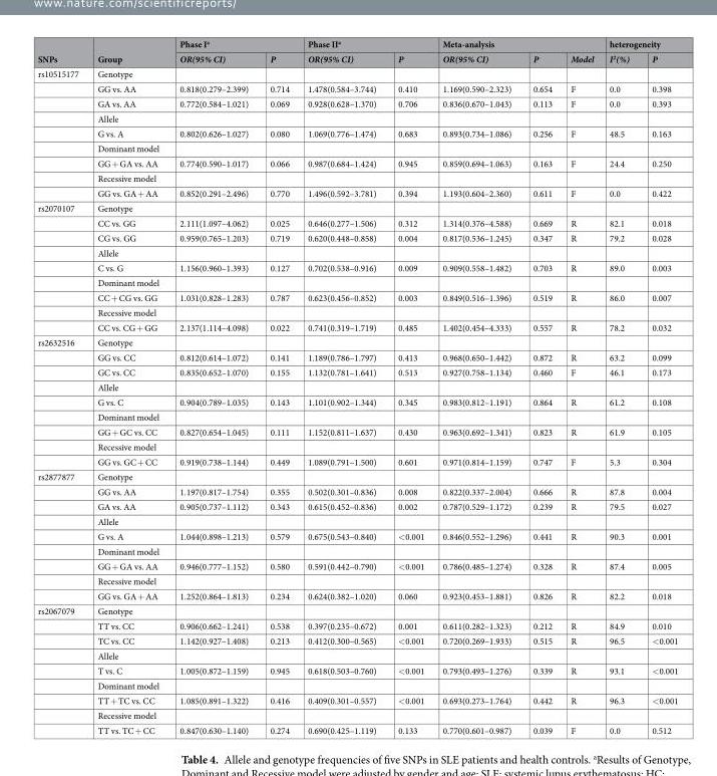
<table><thead><tr><td rowspan="2">SNPs</td><td rowspan="2">Group</td><td colspan="2">Phase I<sup>a</sup></td><td colspan="2">Phase II<sup>a</sup></td><td colspan="3">Meta-analysis</td><td colspan="2">heterogeneity</td></tr><tr><td>OR(95% CI)</td><td>P</td><td>OR(95% CI)</td><td>P</td><td>OR(95% CI)</td><td>P</td><td>Model</td><td>I<sup>2</sup>(%)</td><td>P</td></tr></thead><tbody><tr><td rowspan="9">rs10515177</td><td>Genotype</td><td></td><td></td><td></td><td></td><td></td><td></td><td></td><td></td><td></td></tr><tr><td>GG vs. AA</td><td>0.818(0.279–2.399)</td><td>0.714</td><td>1.478(0.584–3.744)</td><td>0.410</td><td>1.169(0.590–2.323)</td><td>0.654</td><td>F</td><td>0.0</td><td>0.398</td></tr><tr><td>GA vs. AA</td><td>0.772(0.584–1.021)</td><td>0.069</td><td>0.928(0.628–1.370)</td><td>0.706</td><td>0.836(0.670–1.043)</td><td>0.113</td><td>F</td><td>0.0</td><td>0.393</td></tr><tr><td>Allele</td><td></td><td></td><td></td><td></td><td></td><td></td><td></td><td></td><td></td></tr><tr><td>G vs. A</td><td>0.802(0.626–1.027)</td><td>0.080</td><td>1.069(0.776–1.474)</td><td>0.683</td><td>0.893(0.734–1.086)</td><td>0.256</td><td>F</td><td>48.5</td><td>0.163</td></tr><tr><td>Dominant model</td><td></td><td></td><td></td><td></td><td></td><td></td><td></td><td></td><td></td></tr><tr><td>GG + GA vs. AA</td><td>0.774(0.590–1.017)</td><td>0.066</td><td>0.987(0.684–1.424)</td><td>0.945</td><td>0.859(0.694–1.063)</td><td>0.163</td><td>F</td><td>24.4</td><td>0.250</td></tr><tr><td>Recessive model</td><td></td><td></td><td></td><td></td><td></td><td></td><td></td><td></td><td></td></tr><tr><td>GG vs. GA + AA</td><td>0.852(0.291–2.496)</td><td>0.770</td><td>1.496(0.592–3.781)</td><td>0.394</td><td>1.193(0.604–2.360)</td><td>0.611</td><td>F</td><td>0.0</td><td>0.422</td></tr><tr><td rowspan="9">rs2070107</td><td>Genotype</td><td></td><td></td><td></td><td></td><td></td><td></td><td></td><td></td><td></td></tr><tr><td>CC vs. GG</td><td>2.111(1.097–4.062)</td><td>0.025</td><td>0.646(0.277–1.506)</td><td>0.312</td><td>1.314(0.376–4.588)</td><td>0.669</td><td>R</td><td>82.1</td><td>0.018</td></tr><tr><td>CG vs. GG</td><td>0.959(0.765–1.203)</td><td>0.719</td><td>0.620(0.448–0.858)</td><td>0.004</td><td>0.817(0.536–1.245)</td><td>0.347</td><td>R</td><td>79.2</td><td>0.028</td></tr><tr><td>Allele</td><td></td><td></td><td></td><td></td><td></td><td></td><td></td><td></td><td></td></tr><tr><td>C vs. G</td><td>1.156(0.960–1.393)</td><td>0.127</td><td>0.702(0.538–0.916)</td><td>0.009</td><td>0.909(0.558–1.482)</td><td>0.703</td><td>R</td><td>89.0</td><td>0.003</td></tr><tr><td>Dominant model</td><td></td><td></td><td></td><td></td><td></td><td></td><td></td><td></td><td></td></tr><tr><td>CC + CG vs. GG</td><td>1.031(0.828–1.283)</td><td>0.787</td><td>0.623(0.456–0.852)</td><td>0.003</td><td>0.849(0.516–1.396)</td><td>0.519</td><td>R</td><td>86.0</td><td>0.007</td></tr><tr><td>Recessive model</td><td></td><td></td><td></td><td></td><td></td><td></td><td></td><td></td><td></td></tr><tr><td>CC vs. CG + GG</td><td>2.137(1.114–4.098)</td><td>0.022</td><td>0.741(0.319–1.719)</td><td>0.485</td><td>1.402(0.454–4.333)</td><td>0.557</td><td>R</td><td>78.2</td><td>0.032</td></tr><tr><td rowspan="9">rs2632516</td><td>Genotype</td><td></td><td></td><td></td><td></td><td></td><td></td><td></td><td></td><td></td></tr><tr><td>GG vs. CC</td><td>0.812(0.614–1.072)</td><td>0.141</td><td>1.189(0.786–1.797)</td><td>0.413</td><td>0.968(0.650–1.442)</td><td>0.872</td><td>R</td><td>63.2</td><td>0.099</td></tr><tr><td>GC vs. CC</td><td>0.835(0.652–1.070)</td><td>0.155</td><td>1.132(0.781–1.641)</td><td>0.513</td><td>0.927(0.758–1.134)</td><td>0.460</td><td>F</td><td>46.1</td><td>0.173</td></tr><tr><td>Allele</td><td></td><td></td><td></td><td></td><td></td><td></td><td></td><td></td><td></td></tr><tr><td>G vs. C</td><td>0.904(0.789–1.035)</td><td>0.143</td><td>1.101(0.902–1.344)</td><td>0.345</td><td>0.983(0.812–1.191)</td><td>0.864</td><td>R</td><td>61.2</td><td>0.108</td></tr><tr><td>Dominant model</td><td></td><td></td><td></td><td></td><td></td><td></td><td></td><td></td><td></td></tr><tr><td>GG + GC vs. CC</td><td>0.827(0.654–1.045)</td><td>0.111</td><td>1.152(0.811–1.637)</td><td>0.430</td><td>0.963(0.692–1.341)</td><td>0.823</td><td>R</td><td>61.9</td><td>0.105</td></tr><tr><td>Recessive model</td><td></td><td></td><td></td><td></td><td></td><td></td><td></td><td></td><td></td></tr><tr><td>GG vs. GC + CC</td><td>0.919(0.738–1.144)</td><td>0.449</td><td>1.089(0.791–1.500)</td><td>0.601</td><td>0.971(0.814–1.159)</td><td>0.747</td><td>F</td><td>5.3</td><td>0.304</td></tr><tr><td rowspan="9">rs2877877</td><td>Genotype</td><td></td><td></td><td></td><td></td><td></td><td></td><td></td><td></td><td></td></tr><tr><td>GG vs. AA</td><td>1.197(0.817–1.754)</td><td>0.355</td><td>0.502(0.301–0.836)</td><td>0.008</td><td>0.822(0.337–2.004)</td><td>0.666</td><td>R</td><td>87.8</td><td>0.004</td></tr><tr><td>GA vs. AA</td><td>0.905(0.737–1.112)</td><td>0.343</td><td>0.615(0.452–0.836)</td><td>0.002</td><td>0.787(0.529–1.172)</td><td>0.239</td><td>R</td><td>79.5</td><td>0.027</td></tr><tr><td>Allele</td><td></td><td></td><td></td><td></td><td></td><td></td><td></td><td></td><td></td></tr><tr><td>G vs. A</td><td>1.044(0.898–1.213)</td><td>0.579</td><td>0.675(0.543–0.840)</td><td>&lt;0.001</td><td>0.846(0.552–1.296)</td><td>0.441</td><td>R</td><td>90.3</td><td>0.001</td></tr><tr><td>Dominant model</td><td></td><td></td><td></td><td></td><td></td><td></td><td></td><td></td><td></td></tr><tr><td>GG + GA vs. AA</td><td>0.946(0.777–1.152)</td><td>0.580</td><td>0.591(0.442–0.790)</td><td>&lt;0.001</td><td>0.786(0.485–1.274)</td><td>0.328</td><td>R</td><td>87.4</td><td>0.005</td></tr><tr><td>Recessive model</td><td></td><td></td><td></td><td></td><td></td><td></td><td></td><td></td><td></td></tr><tr><td>GG vs. GA + AA</td><td>1.252(0.864–1.813)</td><td>0.234</td><td>0.624(0.382–1.020)</td><td>0.060</td><td>0.923(0.453–1.881)</td><td>0.826</td><td>R</td><td>82.2</td><td>0.018</td></tr><tr><td rowspan="9">rs2067079</td><td>Genotype</td><td></td><td></td><td></td><td></td><td></td><td></td><td></td><td></td><td></td></tr><tr><td>TT vs. CC</td><td>0.906(0.662–1.241)</td><td>0.538</td><td>0.397(0.235–0.672)</td><td>0.001</td><td>0.611(0.282–1.323)</td><td>0.212</td><td>R</td><td>84.9</td><td>0.010</td></tr><tr><td>TC vs. CC</td><td>1.142(0.927–1.408)</td><td>0.213</td><td>0.412(0.300–0.565)</td><td>&lt;0.001</td><td>0.720(0.269–1.933)</td><td>0.515</td><td>R</td><td>96.5</td><td>&lt;0.001</td></tr><tr><td>Allele</td><td></td><td></td><td></td><td></td><td></td><td></td><td></td><td></td><td></td></tr><tr><td>T vs. C</td><td>1.005(0.872–1.159)</td><td>0.945</td><td>0.618(0.503–0.760)</td><td>&lt;0.001</td><td>0.793(0.493–1.276)</td><td>0.339</td><td>R</td><td>93.1</td><td>&lt;0.001</td></tr><tr><td>Dominant model</td><td></td><td></td><td></td><td></td><td></td><td></td><td></td><td></td><td></td></tr><tr><td>TT + TC vs. CC</td><td>1.085(0.891–1.322)</td><td>0.416</td><td>0.409(0.301–0.557)</td><td>&lt;0.001</td><td>0.693(0.273–1.764)</td><td>0.442</td><td>R</td><td>96.3</td><td>&lt;0.001</td></tr><tr><td>Recessive model</td><td></td><td></td><td></td><td></td><td></td><td></td><td></td><td></td><td></td></tr><tr><td>TT vs. TC + CC</td><td>0.847(0.630–1.140)</td><td>0.274</td><td>0.690(0.425–1.119)</td><td>0.133</td><td>0.770(0.601–0.987)</td><td>0.039</td><td>F</td><td>0.0</td><td>0.512</td></tr></tbody></table>